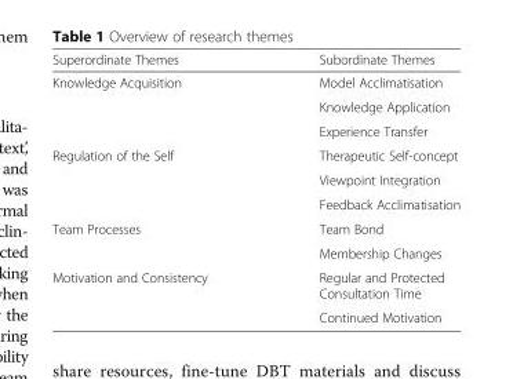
<table><thead><tr><td>Superordinate Themes</td><td>Subordinate Themes</td></tr></thead><tbody><tr><td rowspan="3">Knowledge Acquisition</td><td>Model Acclimatisation</td></tr><tr><td>Knowledge Application</td></tr><tr><td>Experience Transfer</td></tr><tr><td rowspan="3">Regulation of the Self</td><td>Therapeutic Self-concept</td></tr><tr><td>Viewpoint Integration</td></tr><tr><td>Feedback Acclimatisation</td></tr><tr><td rowspan="2">Team Processes</td><td>Team Bond</td></tr><tr><td>Membership Changes</td></tr><tr><td rowspan="2">Motivation and Consistency</td><td>Regular and Protected Consultation Time</td></tr><tr><td>Continued Motivation</td></tr></tbody></table>